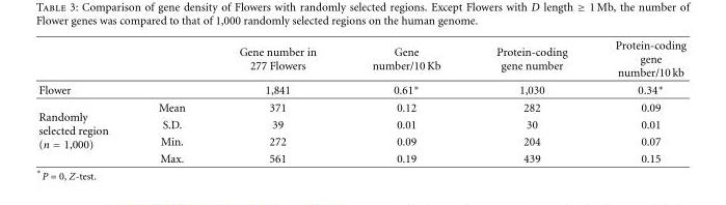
<table><thead><tr><td></td><td></td><td>Gene number in 277 Flowers</td><td>Gene number/10 Kb</td><td>Protein-coding gene number</td><td>Protein-coding gene number/10 kb</td></tr></thead><tbody><tr><td>Flower</td><td></td><td>1,841</td><td>0.61∗</td><td>1,030</td><td>0.34∗</td></tr><tr><td rowspan="4">Randomly selected region (n = 1,000)</td><td>Mean</td><td>371</td><td>0.12</td><td>282</td><td>0.09</td></tr><tr><td>S.D.</td><td>39</td><td>0.01</td><td>30</td><td>0.01</td></tr><tr><td>Min.</td><td>272</td><td>0.09</td><td>204</td><td>0.07</td></tr><tr><td>Max.</td><td>561</td><td>0.19</td><td>439</td><td>0.15</td></tr></tbody></table>